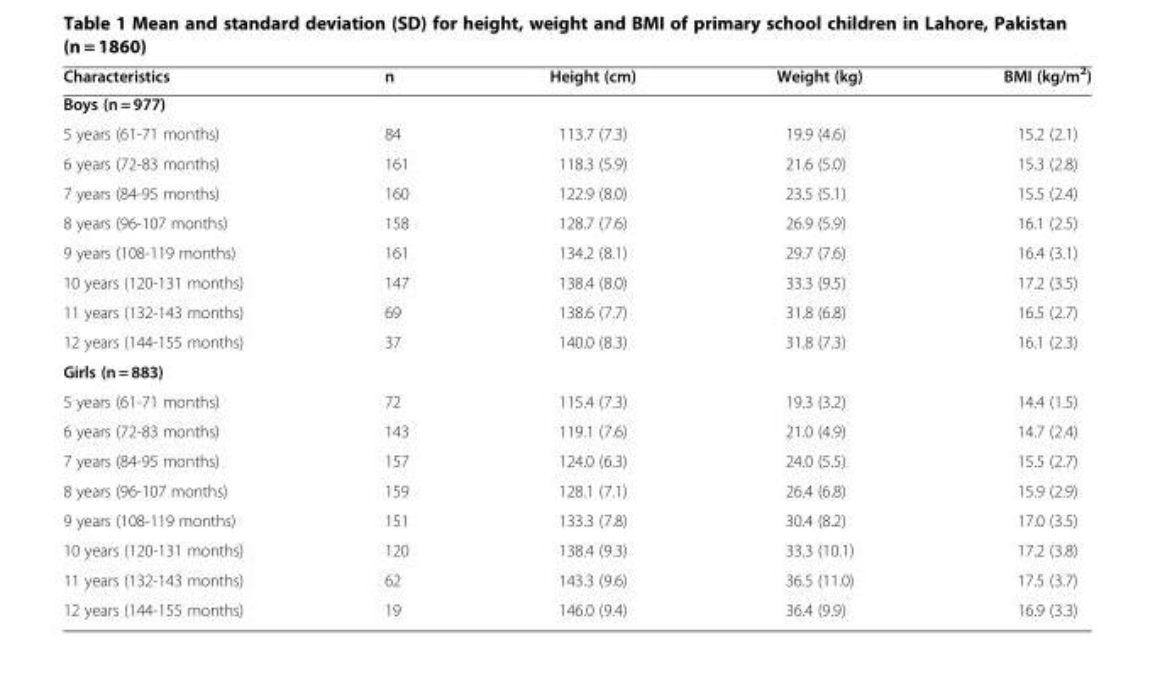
<table><thead><tr><td>Characteristics</td><td>n</td><td>Height (cm)</td><td>Weight (kg)</td><td>BMI (kg/m<sup>2</sup>)</td></tr></thead><tbody><tr><td colspan="5">Boys (n = 977)</td></tr><tr><td>5 years (61-71 months)</td><td>84</td><td>113.7 (7.3)</td><td>19.9 (4.6)</td><td>15.2 (2.1)</td></tr><tr><td>6 years (72-83 months)</td><td>161</td><td>118.3 (5.9)</td><td>21.6 (5.0)</td><td>15.3 (2.8)</td></tr><tr><td>7 years (84-95 months)</td><td>160</td><td>122.9 (8.0)</td><td>23.5 (5.1)</td><td>15.5 (2.4)</td></tr><tr><td>8 years (96-107 months)</td><td>158</td><td>128.7 (7.6)</td><td>26.9 (5.9)</td><td>16.1 (2.5)</td></tr><tr><td>9 years (108-119 months)</td><td>161</td><td>134.2 (8.1)</td><td>29.7 (7.6)</td><td>16.4 (3.1)</td></tr><tr><td>10 years (120-131 months)</td><td>147</td><td>138.4 (8.0)</td><td>33.3 (9.5)</td><td>17.2 (3.5)</td></tr><tr><td>11 years (132-143 months)</td><td>69</td><td>138.6 (7.7)</td><td>31.8 (6.8)</td><td>16.5 (2.7)</td></tr><tr><td>12 years (144-155 months)</td><td>37</td><td>140.0 (8.3)</td><td>31.8 (7.3)</td><td>16.1 (2.3)</td></tr><tr><td colspan="5">Girls (n = 883)</td></tr><tr><td>5 years (61-71 months)</td><td>72</td><td>115.4 (7.3)</td><td>19.3 (3.2)</td><td>14.4 (1.5)</td></tr><tr><td>6 years (72-83 months)</td><td>143</td><td>119.1 (7.6)</td><td>21.0 (4.9)</td><td>14.7 (2.4)</td></tr><tr><td>7 years (84-95 months)</td><td>157</td><td>124.0 (6.3)</td><td>24.0 (5.5)</td><td>15.5 (2.7)</td></tr><tr><td>8 years (96-107 months)</td><td>159</td><td>128.1 (7.1)</td><td>26.4 (6.8)</td><td>15.9 (2.9)</td></tr><tr><td>9 years (108-119 months)</td><td>151</td><td>133.3 (7.8)</td><td>30.4 (8.2)</td><td>17.0 (3.5)</td></tr><tr><td>10 years (120-131 months)</td><td>120</td><td>138.4 (9.3)</td><td>33.3 (10.1)</td><td>17.2 (3.8)</td></tr><tr><td>11 years (132-143 months)</td><td>62</td><td>143.3 (9.6)</td><td>36.5 (11.0)</td><td>17.5 (3.7)</td></tr><tr><td>12 years (144-155 months)</td><td>19</td><td>146.0 (9.4)</td><td>36.4 (9.9)</td><td>16.9 (3.3)</td></tr></tbody></table>